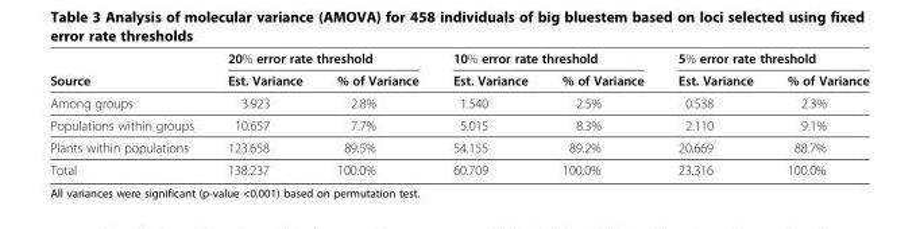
<table><thead><tr><td rowspan="2">Source</td><td colspan="2">20% error rate threshold</td><td colspan="2">10% error rate threshold</td><td colspan="2">5% error rate threshold</td></tr><tr><td>Est. Variance</td><td>% of Variance</td><td>Est. Variance</td><td>% of Variance</td><td>Est. Variance</td><td>% of Variance</td></tr></thead><tbody><tr><td>Among groups</td><td>3.923</td><td>2.8%</td><td>1.540</td><td>2.5%</td><td>0.538</td><td>2.3%</td></tr><tr><td>Populations within groups</td><td>10.657</td><td>7.7%</td><td>5.015</td><td>8.3%</td><td>2.110</td><td>9.1%</td></tr><tr><td>Plants within populations</td><td>123.658</td><td>89.5%</td><td>54.155</td><td>89.2%</td><td>20.669</td><td>88.7%</td></tr><tr><td>Total</td><td>138.237</td><td>100.0%</td><td>60.709</td><td>100.0%</td><td>23.316</td><td>100.0%</td></tr></tbody></table>